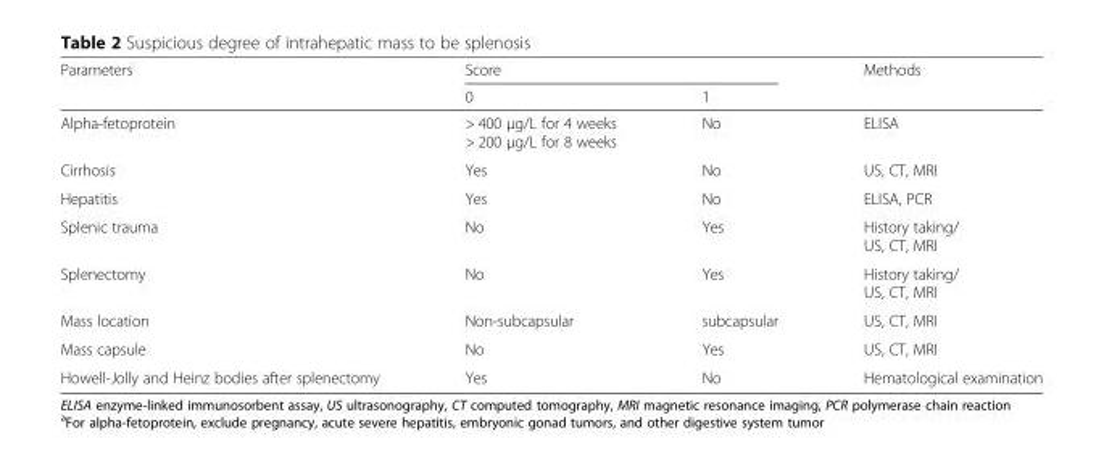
<table><thead><tr><td rowspan="2">Parameters</td><td colspan="2">Score</td><td rowspan="2">Methods</td></tr><tr><td>0</td><td>1</td></tr></thead><tbody><tr><td>Alpha-fetoprotein</td><td>&gt; 400 μg/L for 4 weeks &gt; 200 μg/L for 8 weeks</td><td>No</td><td>ELISA</td></tr><tr><td>Cirrhosis</td><td>Yes</td><td>No</td><td>US, CT, MRI</td></tr><tr><td>Hepatitis</td><td>Yes</td><td>No</td><td>ELISA, PCR</td></tr><tr><td>Splenic trauma</td><td>No</td><td>Yes</td><td>History taking/ US, CT, MRI</td></tr><tr><td>Splenectomy</td><td>No</td><td>Yes</td><td>History taking/ US, CT, MRI</td></tr><tr><td>Mass location</td><td>Non-subcapsular</td><td>subcapsular</td><td>US, CT, MRI</td></tr><tr><td>Mass capsule</td><td>No</td><td>Yes</td><td>US, CT, MRI</td></tr><tr><td>Howell-Jolly and Heinz bodies after splenectomy</td><td>Yes</td><td>No</td><td>Hematological examination</td></tr></tbody></table>